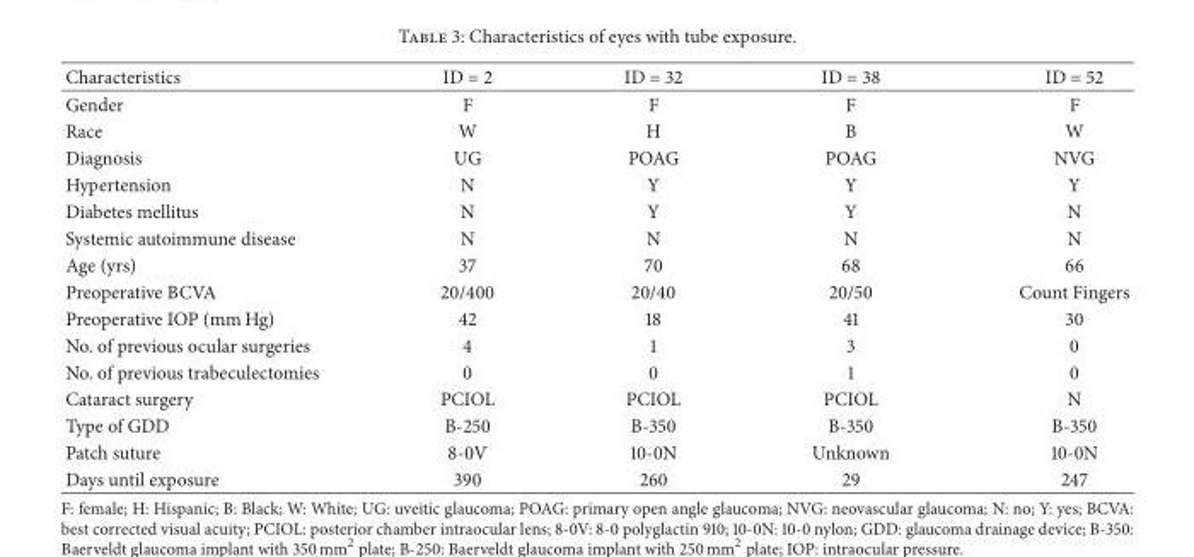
<table><thead><tr><td>Characteristics</td><td>ID = 2</td><td>ID = 32</td><td>ID = 38</td><td>ID = 52</td></tr></thead><tbody><tr><td>Gender</td><td>F</td><td>F</td><td>F</td><td>F</td></tr><tr><td>Race</td><td>W</td><td>H</td><td>B</td><td>W</td></tr><tr><td>Diagnosis</td><td>UG</td><td>POAG</td><td>POAG</td><td>NVG</td></tr><tr><td>Hypertension</td><td>N</td><td>Y</td><td>Y</td><td>Y</td></tr><tr><td>Diabetes mellitus</td><td>N</td><td>Y</td><td>Y</td><td>N</td></tr><tr><td>Systemic autoimmune disease</td><td>N</td><td>N</td><td>N</td><td>N</td></tr><tr><td>Age (yrs)</td><td>37</td><td>70</td><td>68</td><td>66</td></tr><tr><td>Preoperative BCVA</td><td>20/400</td><td>20/40</td><td>20/50</td><td>Count Fingers</td></tr><tr><td>Preoperative IOP (mm Hg)</td><td>42</td><td>18</td><td>41</td><td>30</td></tr><tr><td>No. of previous ocular surgeries</td><td>4</td><td>1</td><td>3</td><td>0</td></tr><tr><td>No. of previous trabeculectomies</td><td>0</td><td>0</td><td>1</td><td>0</td></tr><tr><td>Cataract surgery</td><td>PCIOL</td><td>PCIOL</td><td>PCIOL</td><td>N</td></tr><tr><td>Type of GDD</td><td>B-250</td><td>B-350</td><td>B-350</td><td>B-350</td></tr><tr><td>Patch suture</td><td>8-0V</td><td>10-0N</td><td>Unknown</td><td>10-0N</td></tr><tr><td>Days until exposure</td><td>390</td><td>260</td><td>29</td><td>247</td></tr></tbody></table>